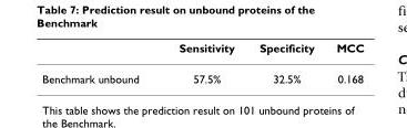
<table><thead><tr><td></td><td>Sensitivity</td><td>Specificity</td><td>MCC</td></tr></thead><tbody><tr><td>Benchmark unbound</td><td>57.5%</td><td>32.5%</td><td>0.168</td></tr></tbody></table>